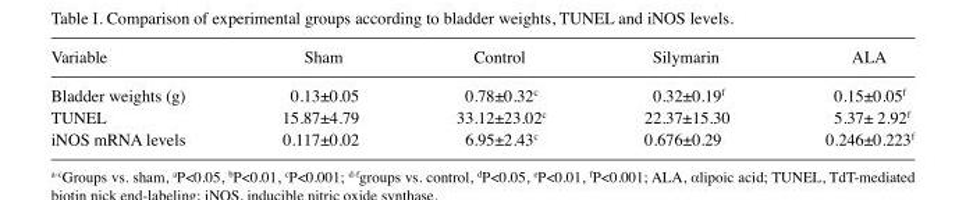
<table><thead><tr><td>Variable</td><td>Sham</td><td>Control</td><td>Silymarin</td><td>ALA</td></tr></thead><tbody><tr><td>Bladder weights (g)</td><td>0.13±0.05</td><td>0.78±0.32<sup>c</sup></td><td>0.32±0.19<sup>f</sup></td><td>0.15±0.05<sup>f</sup></td></tr><tr><td>TUNEL</td><td>15.87±4.79</td><td>33.12±23.02<sup>c</sup></td><td>22.37±15.30</td><td>5.37± 2.92<sup>f</sup></td></tr><tr><td>iNOS mRNA levels</td><td>0.117±0.02</td><td>6.95±2.43<sup>c</sup></td><td>0.676±0.29</td><td>0.246±0.223<sup>f</sup></td></tr></tbody></table>